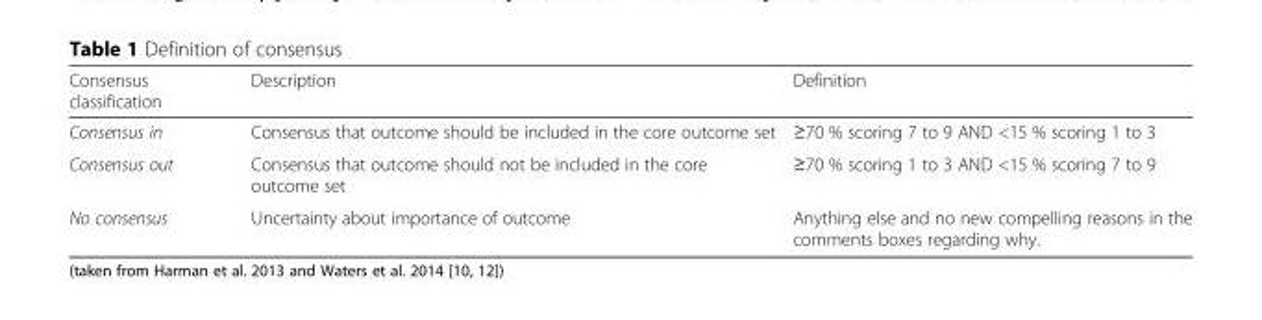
<table><thead><tr><td>Consensus classification</td><td>Description</td><td>Definition</td></tr></thead><tbody><tr><td>Consensus in</td><td>Consensus that outcome should be included in the core outcome set</td><td>≥70 % scoring 7 to 9 AND &lt;15 % scoring 1 to 3</td></tr><tr><td>Consensus out</td><td>Consensus that outcome should not be included in the core outcome set</td><td>≥70 % scoring 1 to 3 AND &lt;15 % scoring 7 to 9</td></tr><tr><td>No consensus</td><td>Uncertainty about importance of outcome</td><td>Anything else and no new compelling reasons in the comments boxes regarding why.</td></tr></tbody></table>